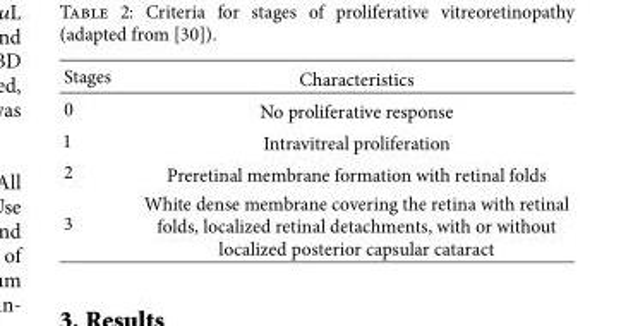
<table><thead><tr><td>Stages</td><td>Characteristics</td></tr></thead><tbody><tr><td>0</td><td>No proliferative response</td></tr><tr><td>1</td><td>Intravitreal proliferation</td></tr><tr><td>2</td><td>Preretinal membrane formation with retinal folds</td></tr><tr><td>3</td><td>White dense membrane covering the retina with retinal folds, localized retinal detachments, with or without localized posterior capsular cataract</td></tr></tbody></table>